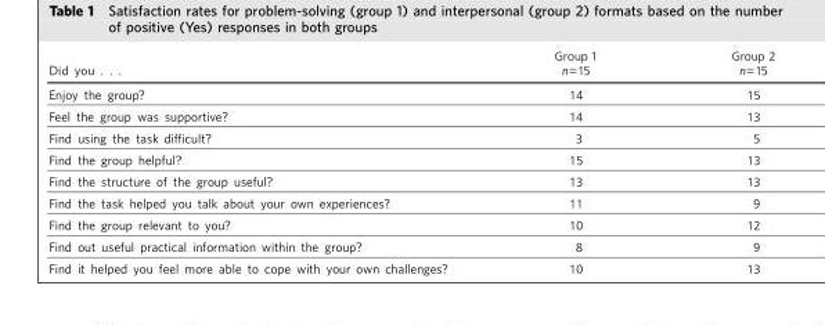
<table><thead><tr><td>Did you . . .</td><td>Group 1 n=15</td><td>Group 2 n=15</td></tr></thead><tbody><tr><td>Enjoy the group?</td><td>14</td><td>15</td></tr><tr><td>Feel the group was supportive?</td><td>14</td><td>13</td></tr><tr><td>Find using the task difficult?</td><td>3</td><td>5</td></tr><tr><td>Find the group helpful?</td><td>15</td><td>13</td></tr><tr><td>Find the structure of the group useful?</td><td>13</td><td>13</td></tr><tr><td>Find the task helped you talk about your own experiences?</td><td>11</td><td>9</td></tr><tr><td>Find the group relevant to you?</td><td>10</td><td>12</td></tr><tr><td>Find out useful practical information within the group?</td><td>8</td><td>9</td></tr><tr><td>Find it helped you feel more able to cope with your own challenges?</td><td>10</td><td>13</td></tr></tbody></table>